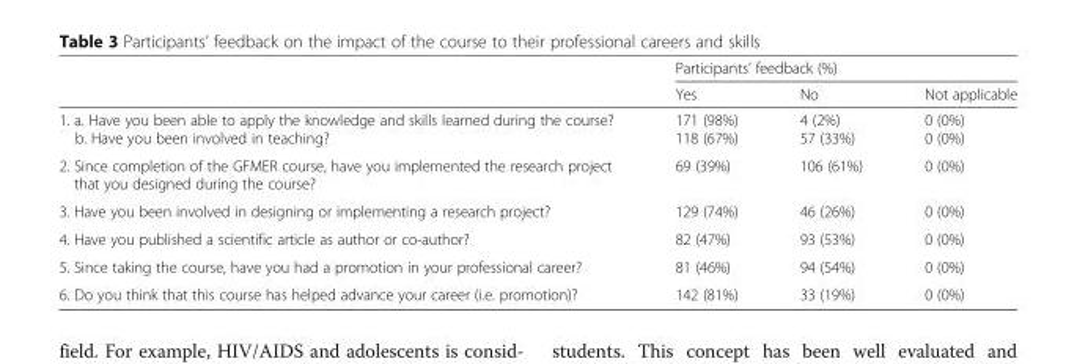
<table><thead><tr><td rowspan="2"></td><td colspan="3">Participants’ feedback (%)</td></tr><tr><td>Yes</td><td>No</td><td>Not applicable</td></tr></thead><tbody><tr><td>1. a. Have you been able to apply the knowledge and skills learned during the course? b. Have you been involved in teaching?</td><td>171 (98%) 118 (67%)</td><td>4 (2%) 57 (33%)</td><td>0 (0%) 0 (0%)</td></tr><tr><td>2. Since completion of the GFMER course, have you implemented the research project that you designed during the course?</td><td>69 (39%)</td><td>106 (61%)</td><td>0 (0%)</td></tr><tr><td>3. Have you been involved in designing or implementing a research project?</td><td>129 (74%)</td><td>46 (26%)</td><td>0 (0%)</td></tr><tr><td>4. Have you published a scientific article as author or co-author?</td><td>82 (47%)</td><td>93 (53%)</td><td>0 (0%)</td></tr><tr><td>5. Since taking the course, have you had a promotion in your professional career?</td><td>81 (46%)</td><td>94 (54%)</td><td>0 (0%)</td></tr><tr><td>6. Do you think that this course has helped advance your career (i.e. promotion)?</td><td>142 (81%)</td><td>33 (19%)</td><td>0 (0%)</td></tr></tbody></table>